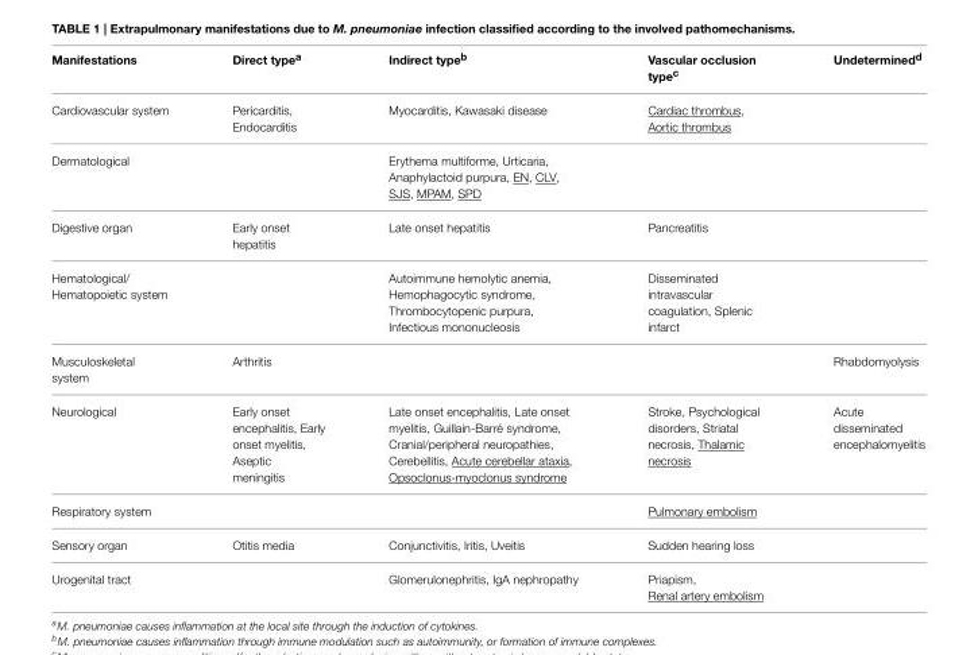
<table><thead><tr><td>Manifestations</td><td>Direct type<sup>a</sup></td><td>Indirect type<sup>b</sup></td><td>Vascular occlusion type<sup>c</sup></td><td>Undetermined<sup>d</sup></td></tr></thead><tbody><tr><td>Cardiovascular system</td><td>Pericarditis, Endocarditis</td><td>Myocarditis, Kawasaki disease</td><td>Cardiac thrombus, Aortic thrombus</td><td></td></tr><tr><td>Dermatological</td><td></td><td>Erythema multiforme, Urticaria, Anaphylactoid purpura, EN, CLV, SJS, MPAM, SPD</td><td></td><td></td></tr><tr><td>Digestive organ</td><td>Early onset hepatitis</td><td>Late onset hepatitis</td><td>Pancreatitis</td><td></td></tr><tr><td>Hematological/ Hematopoietic system</td><td></td><td>Autoimmune hemolytic anemia, Hemophagocytic syndrome, Thrombocytopenic purpura, Infectious mononucleosis</td><td>Disseminated intravascular coagulation, Splenic infarct</td><td></td></tr><tr><td>Musculoskeletal system</td><td>Arthritis</td><td></td><td></td><td>Rhabdomyolysis</td></tr><tr><td>Neurological</td><td>Early onset encephalitis, Early onset myelitis, Aseptic meningitis</td><td>Late onset encephalitis, Late onset myelitis, Guillain-Barré syndrome, Cranial/peripheral neuropathies, Cerebellitis, Acute cerebellar ataxia, Opsoclonus-myoclonus syndrome</td><td>Stroke, Psychological disorders, Striatal necrosis, Thalamic necrosis</td><td>Acute disseminated encephalomyelitis</td></tr><tr><td>Respiratory system</td><td></td><td></td><td>Pulmonary embolism</td><td></td></tr><tr><td>Sensory organ</td><td>Otitis media</td><td>Conjunctivitis, Iritis, Uveitis</td><td>Sudden hearing loss</td><td></td></tr><tr><td>Urogenital tract</td><td></td><td>Glomerulonephritis, IgA nephropathy</td><td>Priapism, Renal artery embolism</td><td></td></tr></tbody></table>